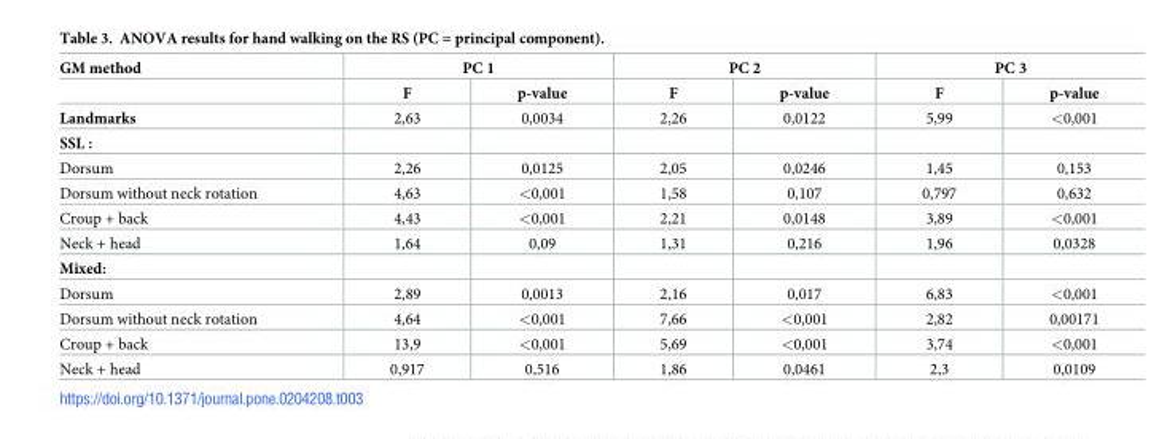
<table><thead><tr><td rowspan="2">GM method</td><td colspan="2">PC 1</td><td colspan="2">PC 2</td><td colspan="2">PC 3</td></tr><tr><td>F</td><td>p-value</td><td>F</td><td>p-value</td><td>F</td><td>p-value</td></tr></thead><tbody><tr><td>Landmarks</td><td>2,63</td><td>0,0034</td><td>2,26</td><td>0,0122</td><td>5,99</td><td>&lt;0,001</td></tr><tr><td colspan="7">SSL :</td></tr><tr><td>Dorsum</td><td>2,26</td><td>0,0125</td><td>2,05</td><td>0,0246</td><td>1,45</td><td>0,153</td></tr><tr><td>Dorsum without neck rotation</td><td>4,63</td><td>&lt;0,001</td><td>1,58</td><td>0,107</td><td>0,797</td><td>0,632</td></tr><tr><td>Croup + back</td><td>4,43</td><td>&lt;0,001</td><td>2,21</td><td>0,0148</td><td>3,89</td><td>&lt;0,001</td></tr><tr><td>Neck + head</td><td>1,64</td><td>0,09</td><td>1,31</td><td>0,216</td><td>1,96</td><td>0,0328</td></tr><tr><td colspan="7">Mixed:</td></tr><tr><td>Dorsum</td><td>2,89</td><td>0,0013</td><td>2,16</td><td>0,017</td><td>6,83</td><td>&lt;0,001</td></tr><tr><td>Dorsum without neck rotation</td><td>4,64</td><td>&lt;0,001</td><td>7,66</td><td>&lt;0,001</td><td>2,82</td><td>0,00171</td></tr><tr><td>Croup + back</td><td>13,9</td><td>&lt;0,001</td><td>5,69</td><td>&lt;0,001</td><td>3,74</td><td>&lt;0,001</td></tr><tr><td>Neck + head</td><td>0,917</td><td>0,516</td><td>1,86</td><td>0,0461</td><td>2,3</td><td>0,0109</td></tr></tbody></table>